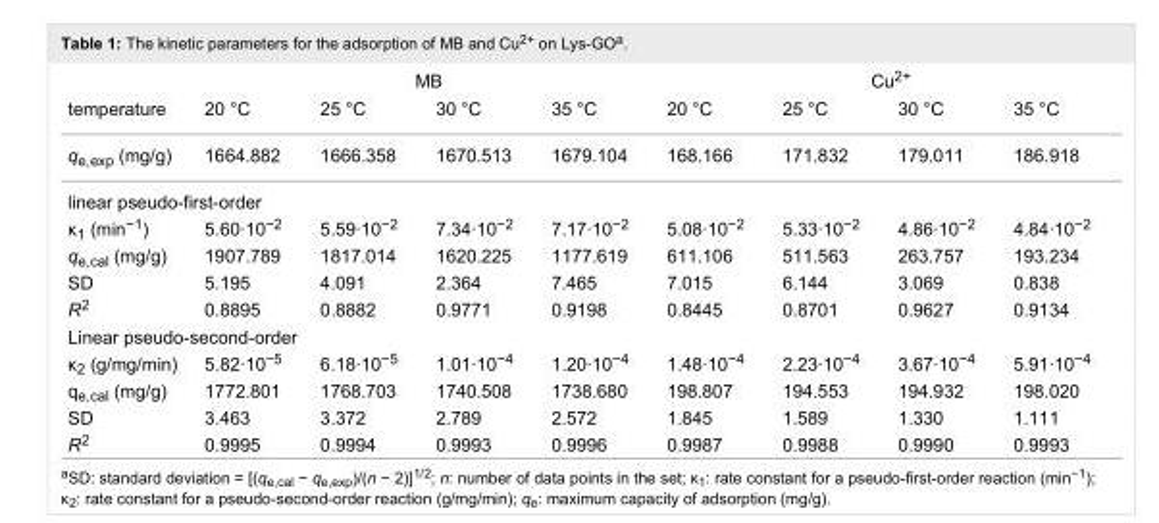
<table><thead><tr><td rowspan="2">temperature</td><td colspan="4">MB</td><td colspan="4">Cu<sup>2+</sup></td></tr><tr><td>20 °C</td><td>25 °C</td><td>30 °C</td><td>35 °C</td><td>20 °C</td><td>25 °C</td><td>30 °C</td><td>35 °C</td></tr></thead><tbody><tr><td>q<sub>e,exp</sub> (mg/g)</td><td>1664.882</td><td>1666.358</td><td>1670.513</td><td>1679.104</td><td>168.166</td><td>171.832</td><td>179.011</td><td>186.918</td></tr><tr><td colspan="9">linear pseudo-first-order</td></tr><tr><td>κ<sub>1</sub> (min<sup>−1</sup>)</td><td>5.60·10<sup>−2</sup></td><td>5.59·10<sup>−2</sup></td><td>7.34·10<sup>−2</sup></td><td>7.17·10<sup>−2</sup></td><td>5.08·10<sup>−2</sup></td><td>5.33·10<sup>−2</sup></td><td>4.86·10<sup>−2</sup></td><td>4.84·10<sup>−2</sup></td></tr><tr><td>q<sub>e,cal</sub> (mg/g)</td><td>1907.789</td><td>1817.014</td><td>1620.225</td><td>1177.619</td><td>611.106</td><td>511.563</td><td>263.757</td><td>193.234</td></tr><tr><td>SD</td><td>5.195</td><td>4.091</td><td>2.364</td><td>7.465</td><td>7.015</td><td>6.144</td><td>3.069</td><td>0.838</td></tr><tr><td>R<sup>2</sup></td><td>0.8895</td><td>0.8882</td><td>0.9771</td><td>0.9198</td><td>0.8445</td><td>0.8701</td><td>0.9627</td><td>0.9134</td></tr><tr><td colspan="9">Linear pseudo-second-order</td></tr><tr><td>κ<sub>2</sub> (g/mg/min)</td><td>5.82·10<sup>−5</sup></td><td>6.18·10<sup>−5</sup></td><td>1.01·10<sup>−4</sup></td><td>1.20·10<sup>−4</sup></td><td>1.48·10<sup>−4</sup></td><td>2.23·10<sup>−4</sup></td><td>3.67·10<sup>−4</sup></td><td>5.91·10<sup>−4</sup></td></tr><tr><td>q<sub>e,cal</sub> (mg/g)</td><td>1772.801</td><td>1768.703</td><td>1740.508</td><td>1738.680</td><td>198.807</td><td>194.553</td><td>194.932</td><td>198.020</td></tr><tr><td>SD</td><td>3.463</td><td>3.372</td><td>2.789</td><td>2.572</td><td>1.845</td><td>1.589</td><td>1.330</td><td>1.111</td></tr><tr><td>R<sup>2</sup></td><td>0.9995</td><td>0.9994</td><td>0.9993</td><td>0.9996</td><td>0.9987</td><td>0.9988</td><td>0.9990</td><td>0.9993</td></tr></tbody></table>